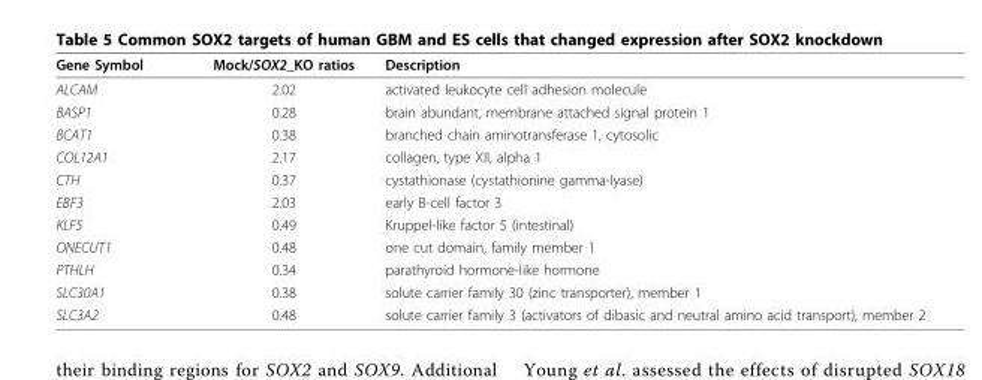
<table><thead><tr><td>Gene Symbol</td><td>Mock/SOX2_KO ratios</td><td>Description</td></tr></thead><tbody><tr><td>ALCAM</td><td>2.02</td><td>activated leukocyte cell adhesion molecule</td></tr><tr><td>BASP1</td><td>0.28</td><td>brain abundant, membrane attached signal protein 1</td></tr><tr><td>BCAT1</td><td>0.38</td><td>branched chain aminotransferase 1, cytosolic</td></tr><tr><td>COL12A1</td><td>2.17</td><td>collagen, type XII, alpha 1</td></tr><tr><td>CTH</td><td>0.37</td><td>cystathionase (cystathionine gamma-lyase)</td></tr><tr><td>EBF3</td><td>2.03</td><td>early B-cell factor 3</td></tr><tr><td>KLF5</td><td>0.49</td><td>Kruppel-like factor 5 (intestinal)</td></tr><tr><td>ONECUT1</td><td>0.48</td><td>one cut domain, family member 1</td></tr><tr><td>PTHLH</td><td>0.34</td><td>parathyroid hormone-like hormone</td></tr><tr><td>SLC30A1</td><td>0.38</td><td>solute carrier family 30 (zinc transporter), member 1</td></tr><tr><td>SLC3A2</td><td>0.48</td><td>solute carrier family 3 (activators of dibasic and neutral amino acid transport), member 2</td></tr></tbody></table>